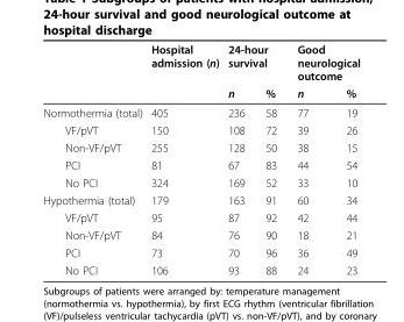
<table><thead><tr><td rowspan="2"></td><td rowspan="2">Hospital admission (n)</td><td colspan="2">24-hour survival</td><td colspan="2">Good neurological outcome</td></tr><tr><td>n</td><td>%</td><td>n</td><td>%</td></tr></thead><tbody><tr><td>Normothermia (total)</td><td>405</td><td>236</td><td>58</td><td>77</td><td>19</td></tr><tr><td>VF/pVT</td><td>150</td><td>108</td><td>72</td><td>39</td><td>26</td></tr><tr><td>Non-VF/pVT</td><td>255</td><td>128</td><td>50</td><td>38</td><td>15</td></tr><tr><td>PCI</td><td>81</td><td>67</td><td>83</td><td>44</td><td>54</td></tr><tr><td>No PCI</td><td>324</td><td>169</td><td>52</td><td>33</td><td>10</td></tr><tr><td>Hypothermia (total)</td><td>179</td><td>163</td><td>91</td><td>60</td><td>34</td></tr><tr><td>VF/pVT</td><td>95</td><td>87</td><td>92</td><td>42</td><td>44</td></tr><tr><td>Non-VF/pVT</td><td>84</td><td>76</td><td>90</td><td>18</td><td>21</td></tr><tr><td>PCI</td><td>73</td><td>70</td><td>96</td><td>36</td><td>49</td></tr><tr><td>No PCI</td><td>106</td><td>93</td><td>88</td><td>24</td><td>23</td></tr></tbody></table>